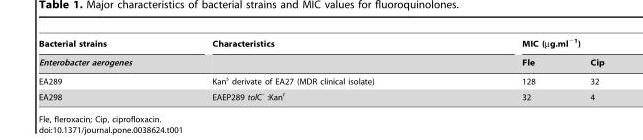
<table><thead><tr><td rowspan="2">Bacterial strains Enterobacter aerogenes</td><td rowspan="2">Characteristics</td><td colspan="2">MIC (µg.ml<sup>−1</sup>)</td></tr><tr><td>Fle</td><td>Cip</td></tr></thead><tbody><tr><td>EA289</td><td>Kan<sup>s</sup> derivate of EA27 (MDR clinical isolate)</td><td>128</td><td>32</td></tr><tr><td>EA298</td><td>EAEP289 tolC<sup>-</sup> :Kan<sup>r</sup></td><td>32</td><td>4</td></tr></tbody></table>